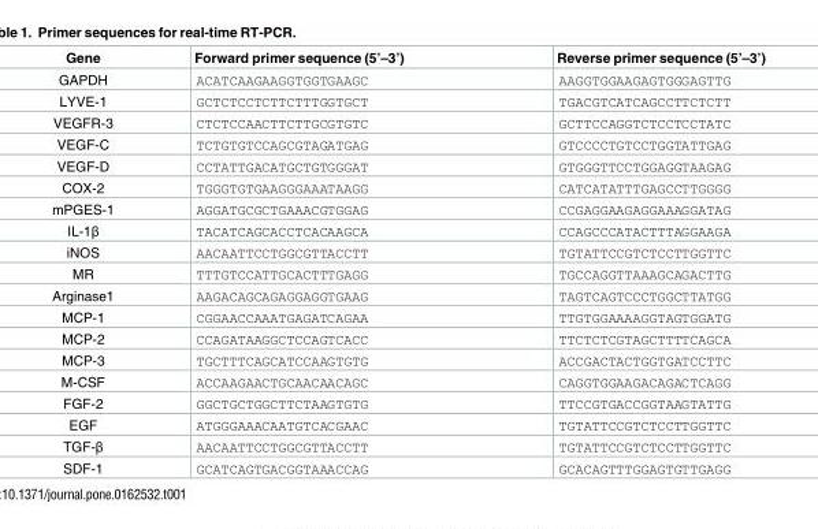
<table><thead><tr><td>Gene</td><td>Forward primer sequence (5’–3’)</td><td>Reverse primer sequence (5’–3’)</td></tr></thead><tbody><tr><td>GAPDH</td><td>ACATCAAGAAGGTGGTGAAGC</td><td>AAGGTGGAAGAGTGGGAGTTG</td></tr><tr><td>LYVE-1</td><td>GCTCTCCTCTTCTTTGGTGCT</td><td>TGACGTCATCAGCCTTCTCTT</td></tr><tr><td>VEGFR-3</td><td>CTCTCCAACTTCTTGCGTGTC</td><td>GCTTCCAGGTCTCCTCCTATC</td></tr><tr><td>VEGF-C</td><td>TCTGTGTCCAGCGTAGATGAG</td><td>GTCCCCTGTCCTGGTATTGAG</td></tr><tr><td>VEGF-D</td><td>CCTATTGACATGCTGTGGGAT</td><td>GTGGGTTCCTGGAGGTAAGAG</td></tr><tr><td>COX-2</td><td>TGGGTGTGAAGGGAAATAAGG</td><td>CATCATATTTGAGCCTTGGGG</td></tr><tr><td>mPGES-1</td><td>AGGATGCGCTGAAACGTGGAG</td><td>CCGAGGAAGAGGAAAGGATAG</td></tr><tr><td>IL-1β</td><td>TACATCAGCACCTCACAAGCA</td><td>CCAGCCCATACTTTAGGAAGA</td></tr><tr><td>iNOS</td><td>AACAATTCCTGGCGTTACCTT</td><td>TGTATTCCGTCTCCTTGGTTC</td></tr><tr><td>MR</td><td>TTTGTCCATTGCACTTTGAGG</td><td>TGCCAGGTTAAAGCAGACTTG</td></tr><tr><td>Arginase1</td><td>AAGACAGCAGAGGAGGTGAAG</td><td>TAGTCAGTCCCTGGCTTATGG</td></tr><tr><td>MCP-1</td><td>CGGAACCAAATGAGATCAGAA</td><td>TTGTGGAAAAGGTAGTGGATG</td></tr><tr><td>MCP-2</td><td>CCAGATAAGGCTCCAGTCACC</td><td>TTCTCTCGTAGCTTTTCAGCA</td></tr><tr><td>MCP-3</td><td>TGCTTTCAGCATCCAAGTGTG</td><td>ACCGACTACTGGTGATCCTTC</td></tr><tr><td>M-CSF</td><td>ACCAAGAACTGCAACAACAGC</td><td>CAGGTGGAAGACAGACTCAGG</td></tr><tr><td>FGF-2</td><td>GGCTGCTGGCTTCTAAGTGTG</td><td>TTCCGTGACCGGTAAGTATTG</td></tr><tr><td>EGF</td><td>ATGGGAAACAATGTCACGAAC</td><td>TGTATTCCGTCTCCTTGGTTC</td></tr><tr><td>TGF-β</td><td>AACAATTCCTGGCGTTACCTT</td><td>TGTATTCCGTCTCCTTGGTTC</td></tr><tr><td>SDF-1</td><td>GCATCAGTGACGGTAAACCAG</td><td>GCACAGTTTGGAGTGTTGAGG</td></tr></tbody></table>